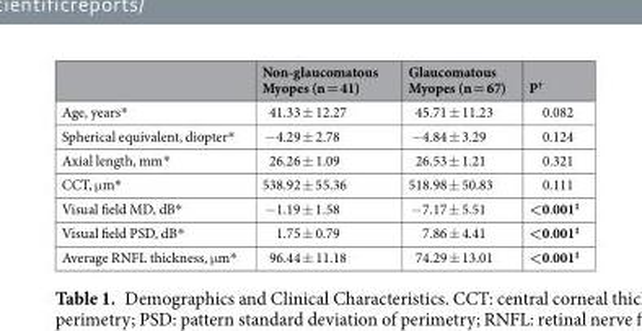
<table><thead><tr><td></td><td>Non-glaucomatous Myopes (n = 41)</td><td>Glaucomatous Myopes (n = 67)</td><td>P<sup>†</sup></td></tr></thead><tbody><tr><td>Age, years*</td><td>41.33 ± 12.27</td><td>45.71 ± 11.23</td><td>0.082</td></tr><tr><td>Spherical equivalent, diopter*</td><td>−4.29 ± 2.78</td><td>−4.84 ± 3.29</td><td>0.124</td></tr><tr><td>Axial length, mm*</td><td>26.26 ± 1.09</td><td>26.53 ± 1.21</td><td>0.321</td></tr><tr><td>CCT, μm*</td><td>538.92 ± 55.36</td><td>518.98 ± 50.83</td><td>0.111</td></tr><tr><td>Visual field MD, dB*</td><td>−1.19 ± 1.58</td><td>−7.17 ± 5.51</td><td>&lt;0.001<sup>‡</sup></td></tr><tr><td>Visual field PSD, dB*</td><td>1.75 ± 0.79</td><td>7.86 ± 4.41</td><td>&lt;0.001<sup>‡</sup></td></tr><tr><td>Average RNFL thickness, μm*</td><td>96.44 ± 11.18</td><td>74.29 ± 13.01</td><td>&lt;0.001<sup>‡</sup></td></tr></tbody></table>